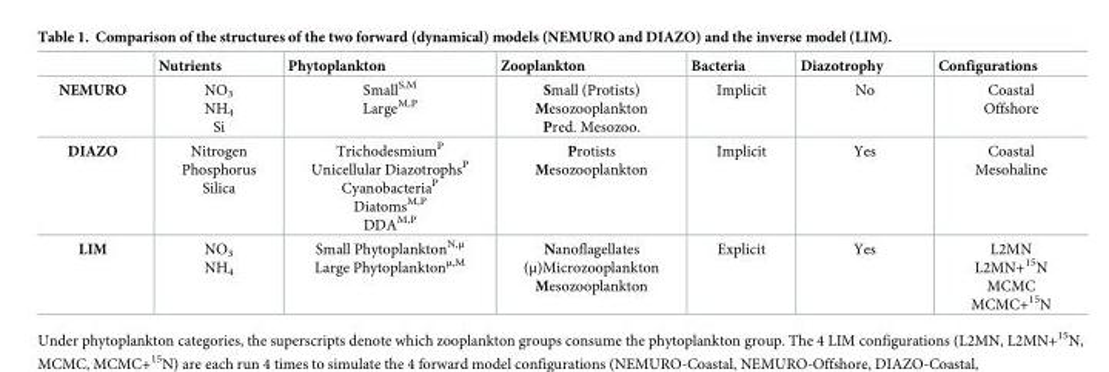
<table><thead><tr><td></td><td>Nutrients</td><td>Phytoplankton</td><td>Zooplankton</td><td>Bacteria</td><td>Diazotrophy</td><td>Configurations</td></tr></thead><tbody><tr><td>NEMURO</td><td>NO<sub>3</sub> NH<sub>4</sub> Si</td><td>Small<sup>S,M</sup> Large<sup>M,P</sup></td><td>Small (Protists) Mesozooplankton Pred. Mesozoo.</td><td>Implicit</td><td>No</td><td>Coastal Offshore</td></tr><tr><td>DIAZO</td><td>Nitrogen Phosphorus Silica</td><td>Trichodesmium<sup>P</sup> Unicellular Diazotrophs<sup>P</sup> Cyanobacteria<sup>P</sup> Diatoms<sup>M,P</sup> DDA<sup>M,P</sup></td><td>Protists Mesozooplankton</td><td>Implicit</td><td>Yes</td><td>Coastal Mesohaline</td></tr><tr><td>LIM</td><td>NO<sub>3</sub> NH<sub>4</sub></td><td>Small Phytoplankton<sup>N,μ</sup> Large Phytoplankton<sup>μ,M</sup></td><td>Nanoflagellates (μ)Microzooplankton Mesozooplankton</td><td>Explicit</td><td>Yes</td><td>L2MN L2MN+<sup>15</sup>N MCMC MCMC+<sup>15</sup>N</td></tr></tbody></table>